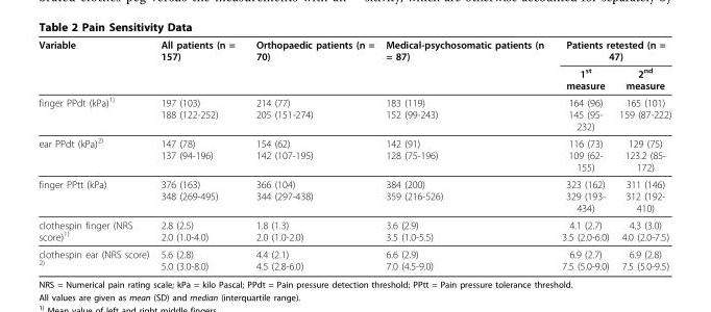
<table><thead><tr><td rowspan="2">Variable</td><td rowspan="2">All patients (n = 157)</td><td rowspan="2">Orthopaedic patients (n = 70)</td><td rowspan="2">Medical-psychosomatic patients (n = 87)</td><td colspan="2">Patients retested (n = 47)</td></tr><tr><td>1<sup>st</sup> measure</td><td>2<sup>nd</sup> measure</td></tr></thead><tbody><tr><td>finger PPdt (kPa)<sup>1)</sup></td><td>197 (103) 188 (122-252)</td><td>214 (77) 205 (151-274)</td><td>183 (119) 152 (99-243)</td><td>164 (96) 145 (95- 232)</td><td>165 (101) 159 (87-222)</td></tr><tr><td>ear PPdt (kPa)<sup>2)</sup></td><td>147 (78) 137 (94-196)</td><td>154 (62) 142 (107-195)</td><td>142 (91) 128 (75-196)</td><td>116 (73) 109 (62- 155)</td><td>129 (75) 123.2 (85- 172)</td></tr><tr><td>finger PPtt (kPa)</td><td>376 (163) 348 (269-495)</td><td>366 (104) 344 (297-438)</td><td>384 (200) 359 (216-526)</td><td>323 (162) 329 (193- 434)</td><td>311 (146) 312 (192- 410)</td></tr><tr><td>clothespin finger (NRS score)<sup>1)</sup></td><td>2.8 (2.5) 2.0 (1.0-4.0)</td><td>1.8 (1.3) 2.0 (1.0-2.0)</td><td>3.6 (2.9) 3.5 (1.0-5.5)</td><td>4.1 (2.7) 3.5 (2.0-6.0)</td><td>4.3 (3.0) 4.0 (2.0-7.5)</td></tr><tr><td>clothespin ear (NRS score) <sup>2)</sup></td><td>5.6 (2.8) 5.0 (3.0-8.0)</td><td>4.4 (2.1) 4.5 (2.8-6.0)</td><td>6.6 (2.9) 7.0 (4.5-9.0)</td><td>6.9 (2.7) 7.5 (5.0-9.0)</td><td>6.9 (2.8) 7.5 (5.0-9.5)</td></tr></tbody></table>